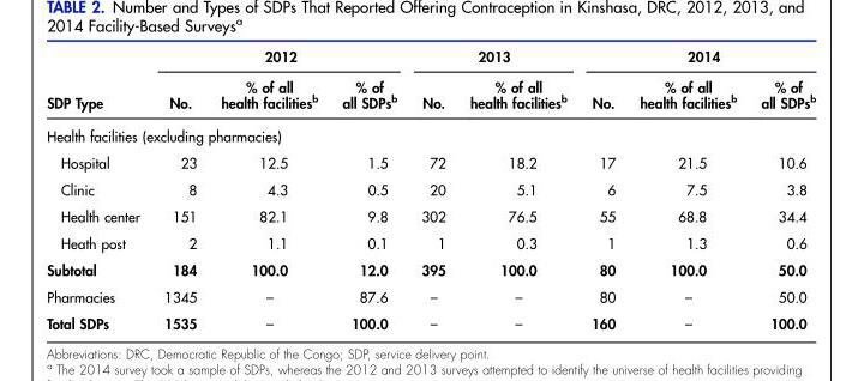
<table><thead><tr><td rowspan="2">SDP Type</td><td colspan="3">2012</td><td colspan="2">2013</td><td colspan="3">2014</td></tr><tr><td>No.</td><td>% of all health facilities<sup>b</sup></td><td>% of all SDPs<sup>b</sup></td><td>No.</td><td>% of all health facilities<sup>b</sup></td><td>No.</td><td>% of all health facilities<sup>b</sup></td><td>% of all SDPs<sup>b</sup></td></tr></thead><tbody><tr><td colspan="9">Health facilities (excluding pharmacies)</td></tr><tr><td>Hospital</td><td>23</td><td>12.5</td><td>1.5</td><td>72</td><td>18.2</td><td>17</td><td>21.5</td><td>10.6</td></tr><tr><td>Clinic</td><td>8</td><td>4.3</td><td>0.5</td><td>20</td><td>5.1</td><td>6</td><td>7.5</td><td>3.8</td></tr><tr><td>Health center</td><td>151</td><td>82.1</td><td>9.8</td><td>302</td><td>76.5</td><td>55</td><td>68.8</td><td>34.4</td></tr><tr><td>Heath post</td><td>2</td><td>1.1</td><td>0.1</td><td>1</td><td>0.3</td><td>1</td><td>1.3</td><td>0.6</td></tr><tr><td>Subtotal</td><td>184</td><td>100.0</td><td>12.0</td><td>395</td><td>100.0</td><td>80</td><td>100.0</td><td>50.0</td></tr><tr><td>Pharmacies</td><td>1345</td><td>–</td><td>87.6</td><td>–</td><td>–</td><td>80</td><td>–</td><td>50.0</td></tr><tr><td>Total SDPs</td><td>1535</td><td>–</td><td>100.0</td><td>–</td><td>–</td><td>160</td><td>–</td><td>100.0</td></tr></tbody></table>